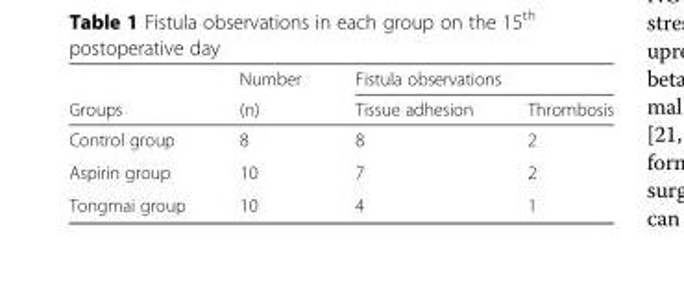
<table><thead><tr><td rowspan="2">Groups</td><td rowspan="2">Number (n)</td><td colspan="2">Fistula observations</td></tr><tr><td>Tissue adhesion</td><td>Thrombosis</td></tr></thead><tbody><tr><td>Control group</td><td>8</td><td>8</td><td>2</td></tr><tr><td>Aspirin group</td><td>10</td><td>7</td><td>2</td></tr><tr><td>Tongmai group</td><td>10</td><td>4</td><td>1</td></tr></tbody></table>